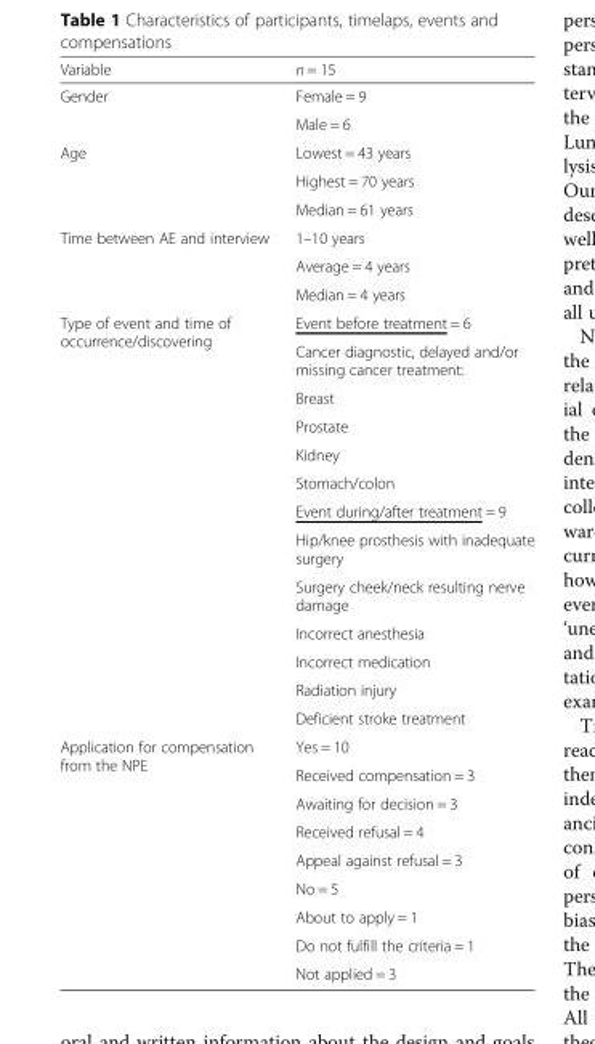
<table><thead><tr><td>Variable</td><td>n = 15</td></tr></thead><tbody><tr><td rowspan="2">Gender</td><td>Female = 9</td></tr><tr><td>Male = 6</td></tr><tr><td rowspan="3">Age</td><td>Lowest = 43 years</td></tr><tr><td>Highest = 70 years</td></tr><tr><td>Median = 61 years</td></tr><tr><td rowspan="3">Time between AE and interview</td><td>1–10 years</td></tr><tr><td>Average = 4 years</td></tr><tr><td>Median = 4 years</td></tr><tr><td rowspan="13">Type of event and time of occurrence/discovering</td><td>Event before treatment = 6</td></tr><tr><td>Cancer diagnostic, delayed and/or missing cancer treatment:</td></tr><tr><td>Breast</td></tr><tr><td>Prostate</td></tr><tr><td>Kidney</td></tr><tr><td>Stomach/colon</td></tr><tr><td>Event during/after treatment = 9</td></tr><tr><td>Hip/knee prosthesis with inadequate surgery</td></tr><tr><td>Surgery cheek/neck resulting nerve damage</td></tr><tr><td>Incorrect anesthesia</td></tr><tr><td>Incorrect medication</td></tr><tr><td>Radiation injury</td></tr><tr><td>Deficient stroke treatment</td></tr><tr><td rowspan="9">Application for compensation from the NPE</td><td>Yes = 10</td></tr><tr><td>Received compensation = 3</td></tr><tr><td>Awaiting for decision = 3</td></tr><tr><td>Received refusal = 4</td></tr><tr><td>Appeal against refusal = 3</td></tr><tr><td>No = 5</td></tr><tr><td>About to apply = 1</td></tr><tr><td>Do not fulfill the criteria = 1</td></tr><tr><td>Not applied = 3</td></tr></tbody></table>